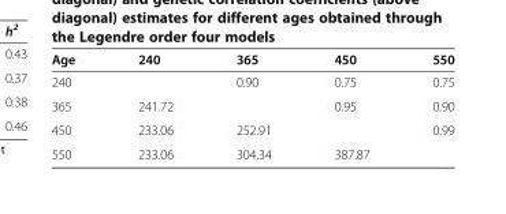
<table><thead><tr><td>Age</td><td>240</td><td>365</td><td>450</td><td>550</td></tr></thead><tbody><tr><td>240</td><td></td><td>0.90</td><td>0.75</td><td>0.75</td></tr><tr><td>365</td><td>241.72</td><td></td><td>0.95</td><td>0.90</td></tr><tr><td>450</td><td>233.06</td><td>252.91</td><td></td><td>0.99</td></tr><tr><td>550</td><td>233.06</td><td>304.34</td><td>387.87</td><td></td></tr></tbody></table>